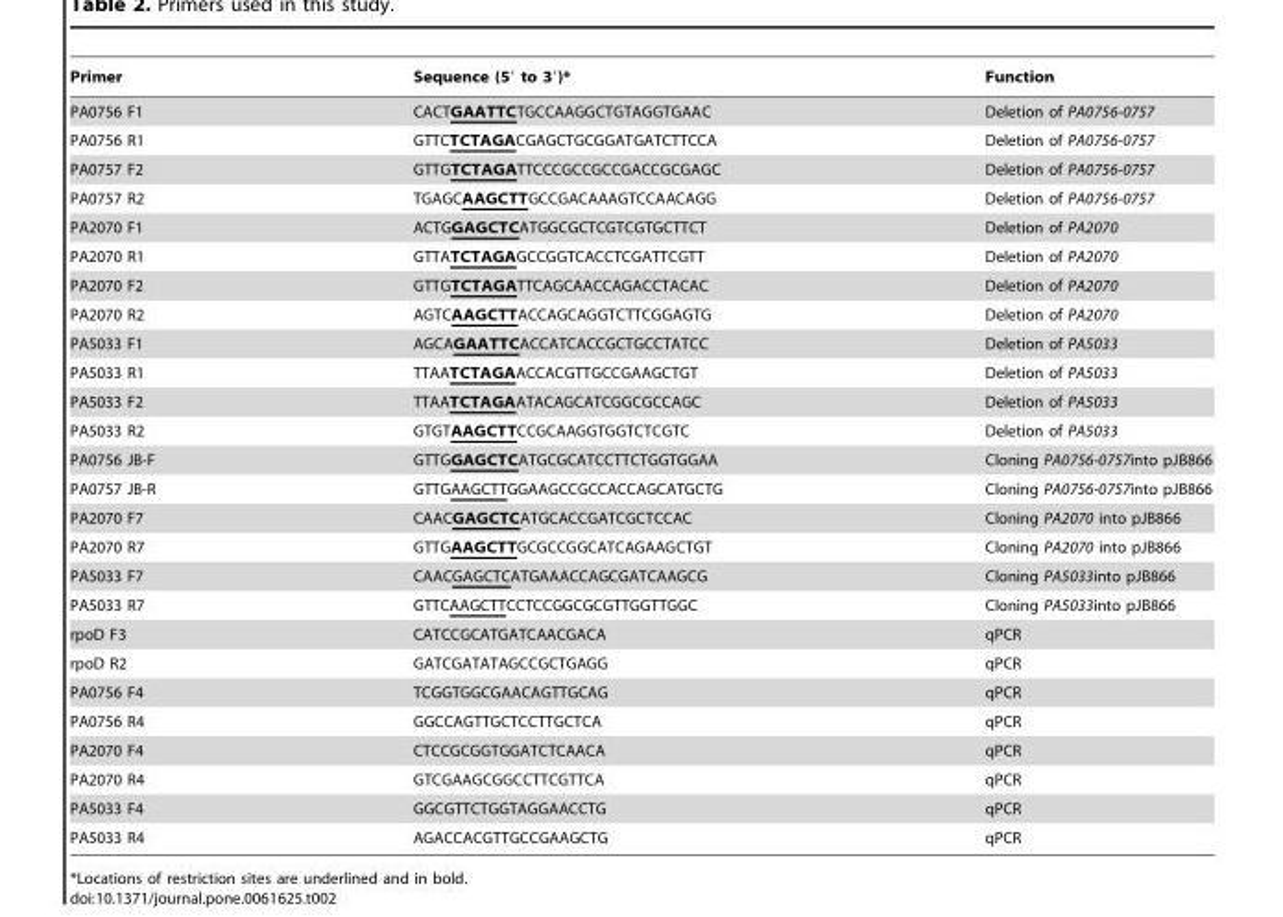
<table><thead><tr><td>Primer</td><td>Sequence (5′ to 3′)*</td><td>Function</td></tr></thead><tbody><tr><td>PA0756 F1</td><td>CACTGAATTCTGCCAAGGCTGTAGGTGAAC</td><td>Deletion of PA0756-0757</td></tr><tr><td>PA0756 R1</td><td>GTTCTCTAGACGAGCTGCGGATGATCTTCCA</td><td>Deletion of PA0756-0757</td></tr><tr><td>PA0757 F2</td><td>GTTGTCTAGATTCCCGCCGCCGACCGCGAGC</td><td>Deletion of PA0756-0757</td></tr><tr><td>PA0757 R2</td><td>TGAGCAAGCTTGCCGACAAAGTCCAACAGG</td><td>Deletion of PA0756-0757</td></tr><tr><td>PA2070 F1</td><td>ACTGGAGCTCATGGCGCTCGTCGTGCTTCT</td><td>Deletion of PA2070</td></tr><tr><td>PA2070 R1</td><td>GTTATCTAGAGCCGGTCACCTCGATTCGTT</td><td>Deletion of PA2070</td></tr><tr><td>PA2070 F2</td><td>GTTGTCTAGATTCAGCAACCAGACCTACAC</td><td>Deletion of PA2070</td></tr><tr><td>PA2070 R2</td><td>AGTCAAGCTTACCAGCAGGTCTTCGGAGTG</td><td>Deletion of PA2070</td></tr><tr><td>PA5033 F1</td><td>AGCAGAATTCACCATCACCGCTGCCTATCC</td><td>Deletion of PA5033</td></tr><tr><td>PA5033 R1</td><td>TTAATCTAGAACCACGTTGCCGAAGCTGT</td><td>Deletion of PA5033</td></tr><tr><td>PA5033 F2</td><td>TTAATCTAGAATACAGCATCGGCGCCAGC</td><td>Deletion of PA5033</td></tr><tr><td>PA5033 R2</td><td>GTGTAAGCTTCCGCAAGGTGGTCTCGTC</td><td>Deletion of PA5033</td></tr><tr><td>PA0756 JB-F</td><td>GTTGGAGCTCATGCGCATCCTTCTGGTGGAA</td><td>Cloning PA0756-0757into pJB866</td></tr><tr><td>PA0757 JB-R</td><td>GTTGAAGCTTGGAAGCCGCCACCAGCATGCTG</td><td>Cloning PA0756-0757into pJB866</td></tr><tr><td>PA2070 F7</td><td>CAACGAGCTCATGCACCGATCGCTCCAC</td><td>Cloning PA2070 into pJB866</td></tr><tr><td>PA2070 R7</td><td>GTTGAAGCTTGCGCCGGCATCAGAAGCTGT</td><td>Cloning PA2070 into pJB866</td></tr><tr><td>PA5033 F7</td><td>CAACGAGCTCATGAAACCAGCGATCAAGCG</td><td>Cloning PA5033into pJB866</td></tr><tr><td>PA5033 R7</td><td>GTTCAAGCTTCCTCCGGCGCGTTGGTTGGC</td><td>Cloning PA5033into pJB866</td></tr><tr><td>rpoD F3</td><td>CATCCGCATGATCAACGACA</td><td>qPCR</td></tr><tr><td>rpoD R2</td><td>GATCGATATAGCCGCTGAGG</td><td>qPCR</td></tr><tr><td>PA0756 F4</td><td>TCGGTGGCGAACAGTTGCAG</td><td>qPCR</td></tr><tr><td>PA0756 R4</td><td>GGCCAGTTGCTCCTTGCTCA</td><td>qPCR</td></tr><tr><td>PA2070 F4</td><td>CTCCGCGGTGGATCTCAACA</td><td>qPCR</td></tr><tr><td>PA2070 R4</td><td>GTCGAAGCGGCCTTCGTTCA</td><td>qPCR</td></tr><tr><td>PA5033 F4</td><td>GGCGTTCTGGTAGGAACCTG</td><td>qPCR</td></tr><tr><td>PA5033 R4</td><td>AGACCACGTTGCCGAAGCTG</td><td>qPCR</td></tr></tbody></table>